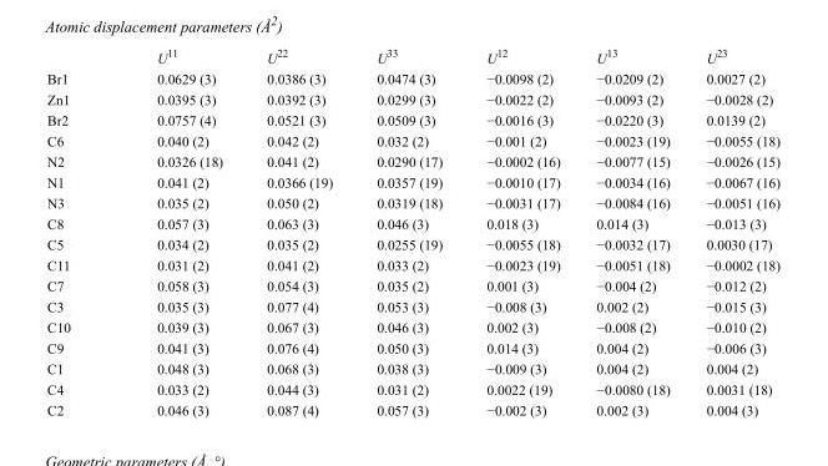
<table><thead><tr><td></td><td>U<sup>11</sup></td><td>U<sup>22</sup></td><td>U<sup>33</sup></td><td>U<sup>12</sup></td><td>U<sup>13</sup></td><td>U<sup>23</sup></td></tr></thead><tbody><tr><td>Br1</td><td>0.0629 (3)</td><td>0.0386 (3)</td><td>0.0474 (3)</td><td>−0.0098 (2)</td><td>−0.0209 (2)</td><td>0.0027 (2)</td></tr><tr><td>Zn1</td><td>0.0395 (3)</td><td>0.0392 (3)</td><td>0.0299 (3)</td><td>−0.0022 (2)</td><td>−0.0093 (2)</td><td>−0.0028 (2)</td></tr><tr><td>Br2</td><td>0.0757 (4)</td><td>0.0521 (3)</td><td>0.0509 (3)</td><td>−0.0016 (3)</td><td>−0.0220 (3)</td><td>0.0139 (2)</td></tr><tr><td>C6</td><td>0.040 (2)</td><td>0.042 (2)</td><td>0.032 (2)</td><td>−0.001 (2)</td><td>−0.0023 (19)</td><td>−0.0055 (18)</td></tr><tr><td>N2</td><td>0.0326 (18)</td><td>0.041 (2)</td><td>0.0290 (17)</td><td>−0.0002 (16)</td><td>−0.0077 (15)</td><td>−0.0026 (15)</td></tr><tr><td>N1</td><td>0.041 (2)</td><td>0.0366 (19)</td><td>0.0357 (19)</td><td>−0.0010 (17)</td><td>−0.0034 (16)</td><td>−0.0067 (16)</td></tr><tr><td>N3</td><td>0.035 (2)</td><td>0.050 (2)</td><td>0.0319 (18)</td><td>−0.0031 (17)</td><td>−0.0084 (16)</td><td>−0.0051 (16)</td></tr><tr><td>C8</td><td>0.057 (3)</td><td>0.063 (3)</td><td>0.046 (3)</td><td>0.018 (3)</td><td>0.014 (3)</td><td>−0.013 (3)</td></tr><tr><td>C5</td><td>0.034 (2)</td><td>0.035 (2)</td><td>0.0255 (19)</td><td>−0.0055 (18)</td><td>−0.0032 (17)</td><td>0.0030 (17)</td></tr><tr><td>C11</td><td>0.031 (2)</td><td>0.041 (2)</td><td>0.033 (2)</td><td>−0.0023 (19)</td><td>−0.0051 (18)</td><td>−0.0002 (18)</td></tr><tr><td>C7</td><td>0.058 (3)</td><td>0.054 (3)</td><td>0.035 (2)</td><td>0.001 (3)</td><td>−0.004 (2)</td><td>−0.012 (2)</td></tr><tr><td>C3</td><td>0.035 (3)</td><td>0.077 (4)</td><td>0.053 (3)</td><td>−0.008 (3)</td><td>0.002 (2)</td><td>−0.015 (3)</td></tr><tr><td>C10</td><td>0.039 (3)</td><td>0.067 (3)</td><td>0.046 (3)</td><td>0.002 (3)</td><td>−0.008 (2)</td><td>−0.010 (2)</td></tr><tr><td>C9</td><td>0.041 (3)</td><td>0.076 (4)</td><td>0.050 (3)</td><td>0.014 (3)</td><td>0.004 (2)</td><td>−0.006 (3)</td></tr><tr><td>C1</td><td>0.048 (3)</td><td>0.068 (3)</td><td>0.038 (3)</td><td>−0.009 (3)</td><td>0.004 (2)</td><td>0.004 (2)</td></tr><tr><td>C4</td><td>0.033 (2)</td><td>0.044 (3)</td><td>0.031 (2)</td><td>0.0022 (19)</td><td>−0.0080 (18)</td><td>0.0031 (18)</td></tr><tr><td>C2</td><td>0.046 (3)</td><td>0.087 (4)</td><td>0.057 (3)</td><td>−0.002 (3)</td><td>0.002 (3)</td><td>0.004 (3)</td></tr></tbody></table>